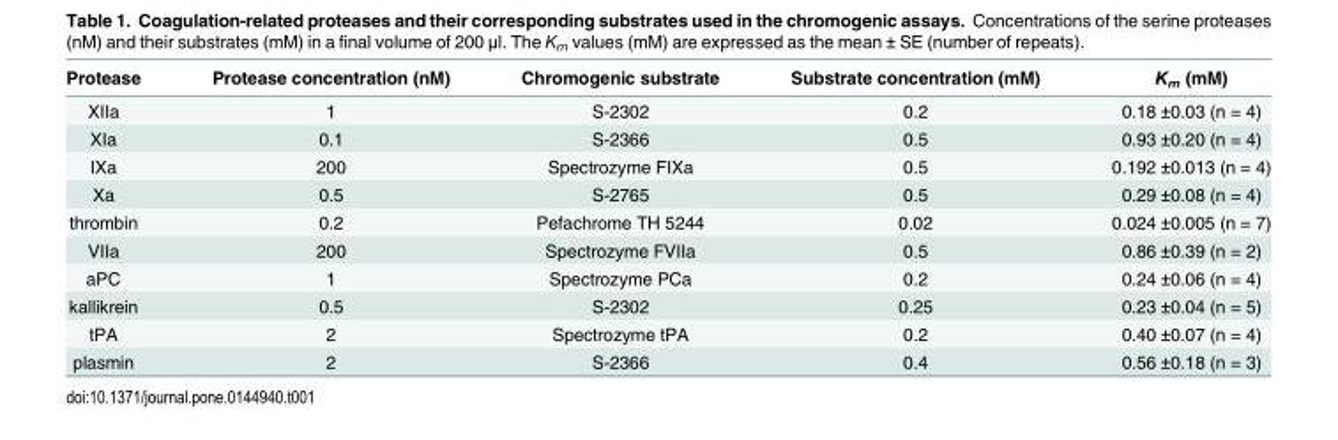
<table><thead><tr><td>Protease</td><td>Protease concentration (nM)</td><td>Chromogenic substrate</td><td>Substrate concentration (mM)</td><td>K<sub>m</sub> (mM)</td></tr></thead><tbody><tr><td>XIIa</td><td>1</td><td>S-2302</td><td>0.2</td><td>0.18 ±0.03 (n = 4)</td></tr><tr><td>XIa</td><td>0.1</td><td>S-2366</td><td>0.5</td><td>0.93 ±0.20 (n = 4)</td></tr><tr><td>IXa</td><td>200</td><td>Spectrozyme FIXa</td><td>0.5</td><td>0.192 ±0.013 (n = 4)</td></tr><tr><td>Xa</td><td>0.5</td><td>S-2765</td><td>0.5</td><td>0.29 ±0.08 (n = 4)</td></tr><tr><td>thrombin</td><td>0.2</td><td>Pefachrome TH 5244</td><td>0.02</td><td>0.024 ±0.005 (n = 7)</td></tr><tr><td>VIIa</td><td>200</td><td>Spectrozyme FVIIa</td><td>0.5</td><td>0.86 ±0.39 (n = 2)</td></tr><tr><td>aPC</td><td>1</td><td>Spectrozyme PCa</td><td>0.2</td><td>0.24 ±0.06 (n = 4)</td></tr><tr><td>kallikrein</td><td>0.5</td><td>S-2302</td><td>0.25</td><td>0.23 ±0.04 (n = 5)</td></tr><tr><td>tPA</td><td>2</td><td>Spectrozyme tPA</td><td>0.2</td><td>0.40 ±0.07 (n = 4)</td></tr><tr><td>plasmin</td><td>2</td><td>S-2366</td><td>0.4</td><td>0.56 ±0.18 (n = 3)</td></tr></tbody></table>